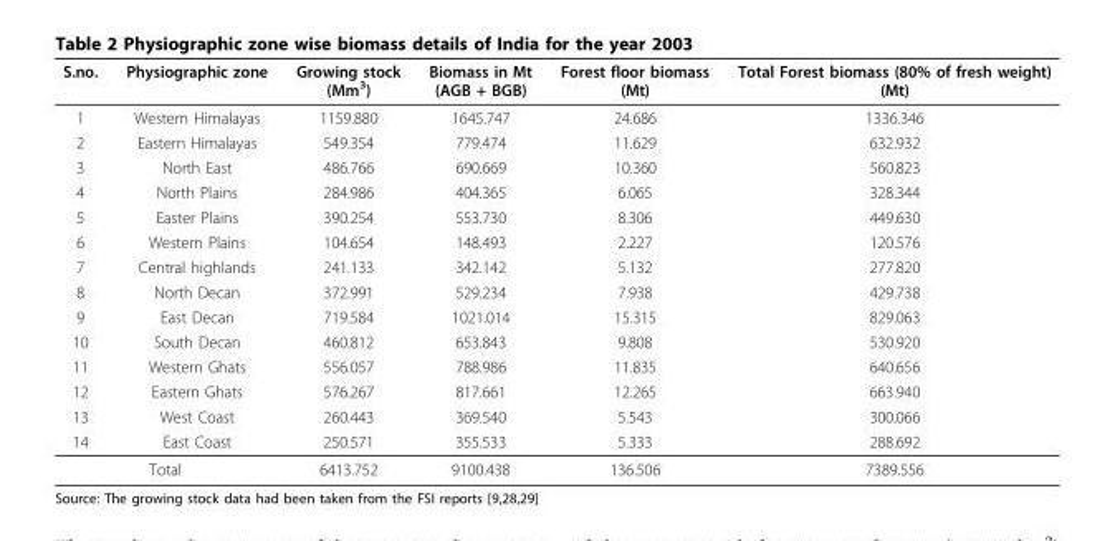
<table><thead><tr><td>S.no.</td><td>Physiographic zone</td><td>Growing stock (Mm<sup>3</sup>)</td><td>Biomass in Mt (AGB + BGB)</td><td>Forest floor biomass (Mt)</td><td>Total Forest biomass (80% of fresh weight) (Mt)</td></tr></thead><tbody><tr><td>1</td><td>Western Himalayas</td><td>1159.880</td><td>1645.747</td><td>24.686</td><td>1336.346</td></tr><tr><td>2</td><td>Eastern Himalayas</td><td>549.354</td><td>779.474</td><td>11.629</td><td>632.932</td></tr><tr><td>3</td><td>North East</td><td>486.766</td><td>690.669</td><td>10.360</td><td>560.823</td></tr><tr><td>4</td><td>North Plains</td><td>284.986</td><td>404.365</td><td>6.065</td><td>328.344</td></tr><tr><td>5</td><td>Easter Plains</td><td>390.254</td><td>553.730</td><td>8.306</td><td>449.630</td></tr><tr><td>6</td><td>Western Plains</td><td>104.654</td><td>148.493</td><td>2.227</td><td>120.576</td></tr><tr><td>7</td><td>Central highlands</td><td>241.133</td><td>342.142</td><td>5.132</td><td>277.820</td></tr><tr><td>8</td><td>North Decan</td><td>372.991</td><td>529.234</td><td>7.938</td><td>429.738</td></tr><tr><td>9</td><td>East Decan</td><td>719.584</td><td>1021.014</td><td>15.315</td><td>829.063</td></tr><tr><td>10</td><td>South Decan</td><td>460.812</td><td>653.843</td><td>9.808</td><td>530.920</td></tr><tr><td>11</td><td>Western Ghats</td><td>556.057</td><td>788.986</td><td>11.835</td><td>640.656</td></tr><tr><td>12</td><td>Eastern Ghats</td><td>576.267</td><td>817.661</td><td>12.265</td><td>663.940</td></tr><tr><td>13</td><td>West Coast</td><td>260.443</td><td>369.540</td><td>5.543</td><td>300.066</td></tr><tr><td>14</td><td>East Coast</td><td>250.571</td><td>355.533</td><td>5.333</td><td>288.692</td></tr><tr><td colspan="2">Total</td><td>6413.752</td><td>9100.438</td><td>136.506</td><td>7389.556</td></tr></tbody></table>